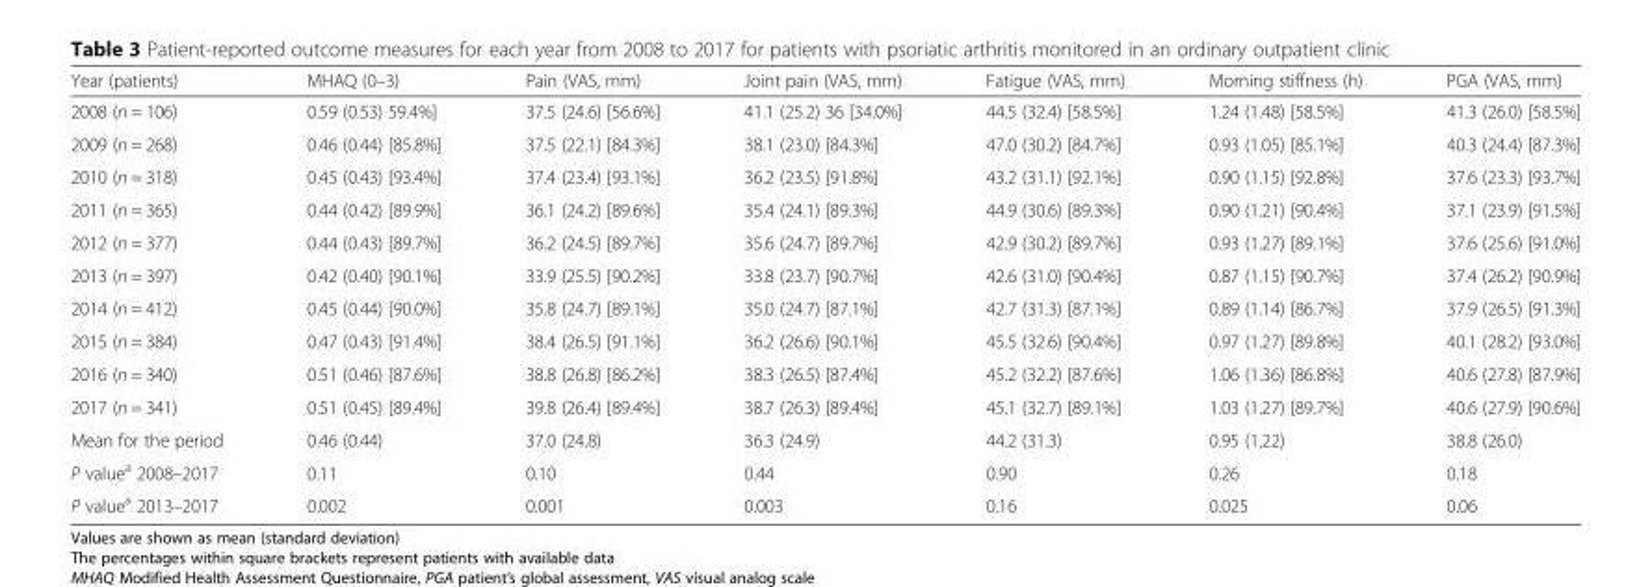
<table><thead><tr><td>Year (patients)</td><td>MHAQ (0–3)</td><td>Pain (VAS, mm)</td><td>Joint pain (VAS, mm)</td><td>Fatigue (VAS, mm)</td><td>Morning stiffness (h)</td><td>PGA (VAS, mm)</td></tr></thead><tbody><tr><td>2008 (n = 106)</td><td>0.59 (0.53) 59.4%]</td><td>37.5 (24.6) [56.6%]</td><td>41.1 (25.2) 36 [34.0%]</td><td>44.5 (32.4) [58.5%]</td><td>1.24 (1.48) [58.5%]</td><td>41.3 (26.0) [58.5%]</td></tr><tr><td>2009 (n = 268)</td><td>0.46 (0.44) [85.8%]</td><td>37.5 (22.1) [84.3%]</td><td>38.1 (23.0) [84.3%]</td><td>47.0 (30.2) [84.7%]</td><td>0.93 (1.05) [85.1%]</td><td>40.3 (24.4) [87.3%]</td></tr><tr><td>2010 (n = 318)</td><td>0.45 (0.43) [93.4%]</td><td>37.4 (23.4) [93.1%]</td><td>36.2 (23.5) [91.8%]</td><td>43.2 (31.1) [92.1%]</td><td>0.90 (1.15) [92.8%]</td><td>37.6 (23.3) [93.7%]</td></tr><tr><td>2011 (n = 365)</td><td>0.44 (0.42) [89.9%]</td><td>36.1 (24.2) [89.6%]</td><td>35.4 (24.1) [89.3%]</td><td>44.9 (30.6) [89.3%]</td><td>0.90 (1.21) [90.4%]</td><td>37.1 (23.9) [91.5%]</td></tr><tr><td>2012 (n = 377)</td><td>0.44 (0.43) [89.7%]</td><td>36.2 (24.5) [89.7%]</td><td>35.6 (24.7) [89.7%]</td><td>42.9 (30.2) [89.7%]</td><td>0.93 (1.27) [89.1%]</td><td>37.6 (25.6) [91.0%]</td></tr><tr><td>2013 (n = 397)</td><td>0.42 (0.40) [90.1%]</td><td>33.9 (25.5) [90.2%]</td><td>33.8 (23.7) [90.7%]</td><td>42.6 (31.0) [90.4%]</td><td>0.87 (1.15) [90.7%]</td><td>37.4 (26.2) [90.9%]</td></tr><tr><td>2014 (n = 412)</td><td>0.45 (0.44) [90.0%]</td><td>35.8 (24.7) [89.1%]</td><td>35.0 (24.7) [87.1%]</td><td>42.7 (31.3) [87.1%]</td><td>0.89 (1.14) [86.7%]</td><td>37.9 (26.5) [91.3%]</td></tr><tr><td>2015 (n = 384)</td><td>0.47 (0.43) [91.4%]</td><td>38.4 (26.5) [91.1%]</td><td>36.2 (26.6) [90.1%]</td><td>45.5 (32.6) [90.4%]</td><td>0.97 (1.27) [89.8%]</td><td>40.1 (28.2) [93.0%]</td></tr><tr><td>2016 (n = 340)</td><td>0.51 (0.46) [87.6%]</td><td>38.8 (26.8) [86.2%]</td><td>38.3 (26.5) [87.4%]</td><td>45.2 (32.2) [87.6%]</td><td>1.06 (1.36) [86.8%]</td><td>40.6 (27.8) [87.9%]</td></tr><tr><td>2017 (n = 341)</td><td>0.51 (0.45) [89.4%]</td><td>39.8 (26.4) [89.4%]</td><td>38.7 (26.3) [89.4%]</td><td>45.1 (32.7) [89.1%]</td><td>1.03 (1.27) [89.7%]</td><td>40.6 (27.9) [90.6%]</td></tr><tr><td>Mean for the period</td><td>0.46 (0.44)</td><td>37.0 (24.8)</td><td>36.3 (24.9)</td><td>44.2 (31.3)</td><td>0.95 (1.22)</td><td>38.8 (26.0)</td></tr><tr><td>P value<sup>a</sup> 2008–2017</td><td>0.11</td><td>0.10</td><td>0.44</td><td>0.90</td><td>0.26</td><td>0.18</td></tr><tr><td>P value<sup>a</sup> 2013–2017</td><td>0.002</td><td>0.001</td><td>0.003</td><td>0.16</td><td>0.025</td><td>0.06</td></tr></tbody></table>